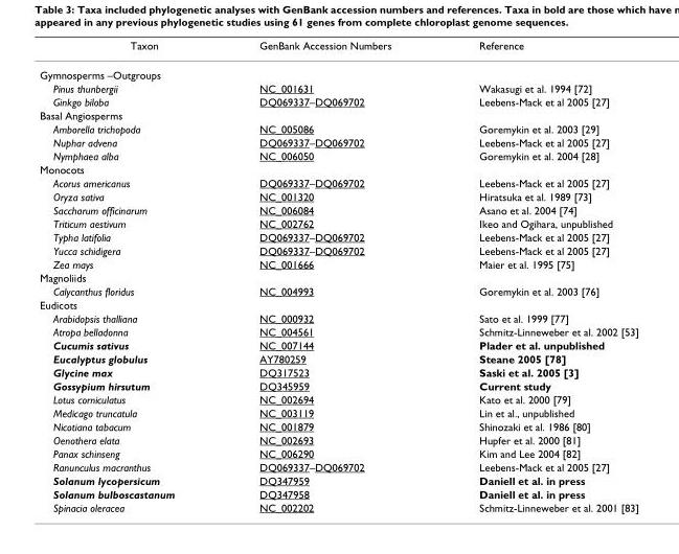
<table><thead><tr><td>Taxon</td><td>GenBank Accession Numbers</td><td>Reference</td></tr></thead><tbody><tr><td colspan="3">Gymnosperms –Outgroups</td></tr><tr><td>Pinus thunbergii</td><td>NC_001631</td><td>Wakasugi et al. 1994 [72]</td></tr><tr><td>Ginkgo biloba</td><td>DQ069337–DQ069702</td><td>Leebens-Mack et al 2005 [27]</td></tr><tr><td colspan="3">Basal Angiosperms</td></tr><tr><td>Amborella trichopoda</td><td>NC_005086</td><td>Goremykin et al. 2003 [29]</td></tr><tr><td>Nuphar advena</td><td>DQ069337–DQ069702</td><td>Leebens-Mack et al 2005 [27]</td></tr><tr><td>Nymphaea alba</td><td>NC_006050</td><td>Goremykin et al. 2004 [28]</td></tr><tr><td colspan="3">Monocots</td></tr><tr><td>Acorus americanus</td><td>DQ069337–DQ069702</td><td>Leebens-Mack et al 2005 [27]</td></tr><tr><td>Oryza sativa</td><td>NC_001320</td><td>Hiratsuka et al. 1989 [73]</td></tr><tr><td>Saccharum officinarum</td><td>NC_006084</td><td>Asano et al. 2004 [74]</td></tr><tr><td>Triticum aestivum</td><td>NC_002762</td><td>Ikeo and Ogihara, unpublished</td></tr><tr><td>Typha latifolia</td><td>DQ069337–DQ069702</td><td>Leebens-Mack et al 2005 [27]</td></tr><tr><td>Yucca schidigera</td><td>DQ069337–DQ069702</td><td>Leebens-Mack et al 2005 [27]</td></tr><tr><td>Zea mays</td><td>NC_001666</td><td>Maier et al. 1995 [75]</td></tr><tr><td colspan="3">Magnoliids</td></tr><tr><td>Calycanthus floridus</td><td>NC_004993</td><td>Goremykin et al. 2003 [76]</td></tr><tr><td colspan="3">Eudicots</td></tr><tr><td>Arabidopsis thalliana</td><td>NC_000932</td><td>Sato et al. 1999 [77]</td></tr><tr><td>Atropa belladonna</td><td>NC_004561</td><td>Schmitz-Linneweber et al. 2002 [53]</td></tr><tr><td>Cucumis sativus</td><td>NC_007144</td><td>Plader et al. unpublished</td></tr><tr><td>Eucalyptus globulus</td><td>AY780259</td><td>Steane 2005 [78]</td></tr><tr><td>Glycine max</td><td>DQ317523</td><td>Saski et al. 2005 [3]</td></tr><tr><td>Gossypium hirsutum</td><td>DQ345959</td><td>Current study</td></tr><tr><td>Lotus corniculatus</td><td>NC_002694</td><td>Kato et al. 2000 [79]</td></tr><tr><td>Medicago truncatula</td><td>NC_003119</td><td>Lin et al., unpublished</td></tr><tr><td>Nicotiana tabacum</td><td>NC_001879</td><td>Shinozaki et al. 1986 [80]</td></tr><tr><td>Oenothera elata</td><td>NC_002693</td><td>Hupfer et al. 2000 [81]</td></tr><tr><td>Panax schinseng</td><td>NC_006290</td><td>Kim and Lee 2004 [82]</td></tr><tr><td>Ranunculus macranthus</td><td>DQ069337–DQ069702</td><td>Leebens-Mack et al 2005 [27]</td></tr><tr><td>Solanum lycopersicum</td><td>DQ347959</td><td>Daniell et al. in press</td></tr><tr><td>Solanum bulboscastanum</td><td>DQ347958</td><td>Daniell et al. in press</td></tr><tr><td>Spinacia oleracea</td><td>NC_002202</td><td>Schmitz-Linneweber et al. 2001 [83]</td></tr></tbody></table>